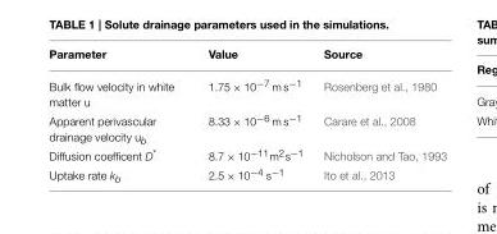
<table><thead><tr><td>Parameter</td><td>Value</td><td>Source</td></tr></thead><tbody><tr><td>Bulk flow velocity in white matter u</td><td>1.75 × 10<sup>−7</sup> m s<sup>−1</sup></td><td>Rosenberg et al., 1980</td></tr><tr><td>Apparent perivascular drainage velocity u<sub>b</sub></td><td>8.33 × 10<sup>−6</sup> m s<sup>−1</sup></td><td>Carare et al., 2008</td></tr><tr><td>Diffusion coefficent D*</td><td>8.7 × 10<sup>−11</sup>m<sup>2</sup>s<sup>−1</sup></td><td>Nicholson and Tao, 1993</td></tr><tr><td>Uptake rate k<sub>b</sub></td><td>2.5 × 10<sup>−4</sup> s<sup>−1</sup></td><td>Ito et al., 2013</td></tr></tbody></table>